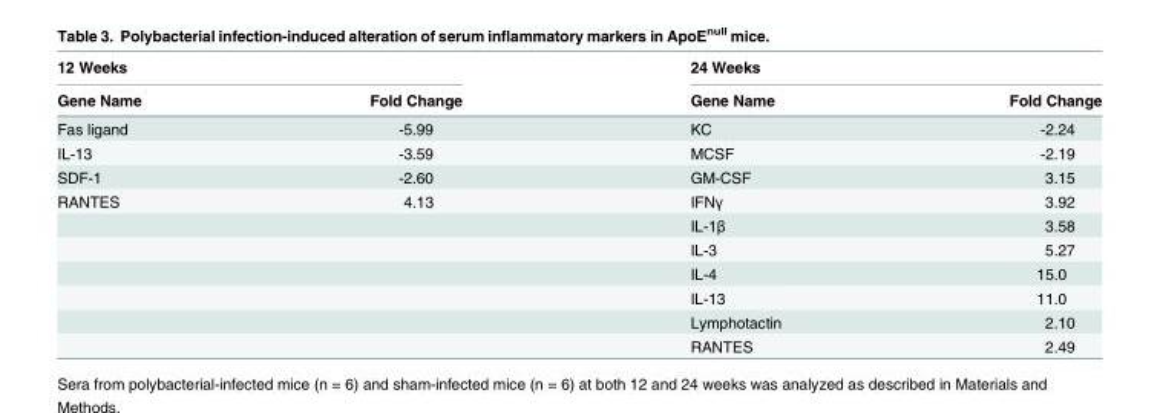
<table><thead><tr><td colspan="2">12 Weeks</td><td colspan="2">24 Weeks</td></tr><tr><td>Gene Name</td><td>Fold Change</td><td>Gene Name</td><td>Fold Change</td></tr></thead><tbody><tr><td>Fas ligand</td><td>-5.99</td><td>KC</td><td>-2.24</td></tr><tr><td>IL-13</td><td>-3.59</td><td>MCSF</td><td>-2.19</td></tr><tr><td>SDF-1</td><td>-2.60</td><td>GM-CSF</td><td>3.15</td></tr><tr><td rowspan="7">RANTES</td><td>4.13</td><td>IFNγ</td><td>3.92</td></tr><tr><td></td><td>IL-1β</td><td>3.58</td></tr><tr><td></td><td>IL-3</td><td>5.27</td></tr><tr><td></td><td>IL-4</td><td>15.0</td></tr><tr><td></td><td>IL-13</td><td>11.0</td></tr><tr><td></td><td>Lymphotactin</td><td>2.10</td></tr><tr><td></td><td>RANTES</td><td>2.49</td></tr></tbody></table>